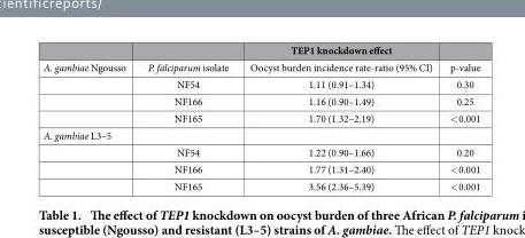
<table><thead><tr><td></td><td></td><td>TEP1 knockdown effect</td><td></td></tr></thead><tbody><tr><td rowspan="4">A. gambiae Ngousso</td><td>P. falciparum isolate</td><td>Oocyst burden incidence rate-ratio (95% CI)</td><td>p-value</td></tr><tr><td>NF54</td><td>1.11 (0.91–1.34)</td><td>0.30</td></tr><tr><td>NF166</td><td>1.16 (0.90–1.49)</td><td>0.25</td></tr><tr><td>NF165</td><td>1.70 (1.32–2.19)</td><td>&lt; 0.001</td></tr><tr><td colspan="4">A. gambiae L3–5</td></tr><tr><td></td><td>NF54</td><td>1.22 (0.90–1.66)</td><td>0.20</td></tr><tr><td></td><td>NF166</td><td>1.77 (1.31–2.40)</td><td>&lt; 0.001</td></tr><tr><td></td><td>NF165</td><td>3.56 (2.36–5.39)</td><td>&lt; 0.001</td></tr></tbody></table>